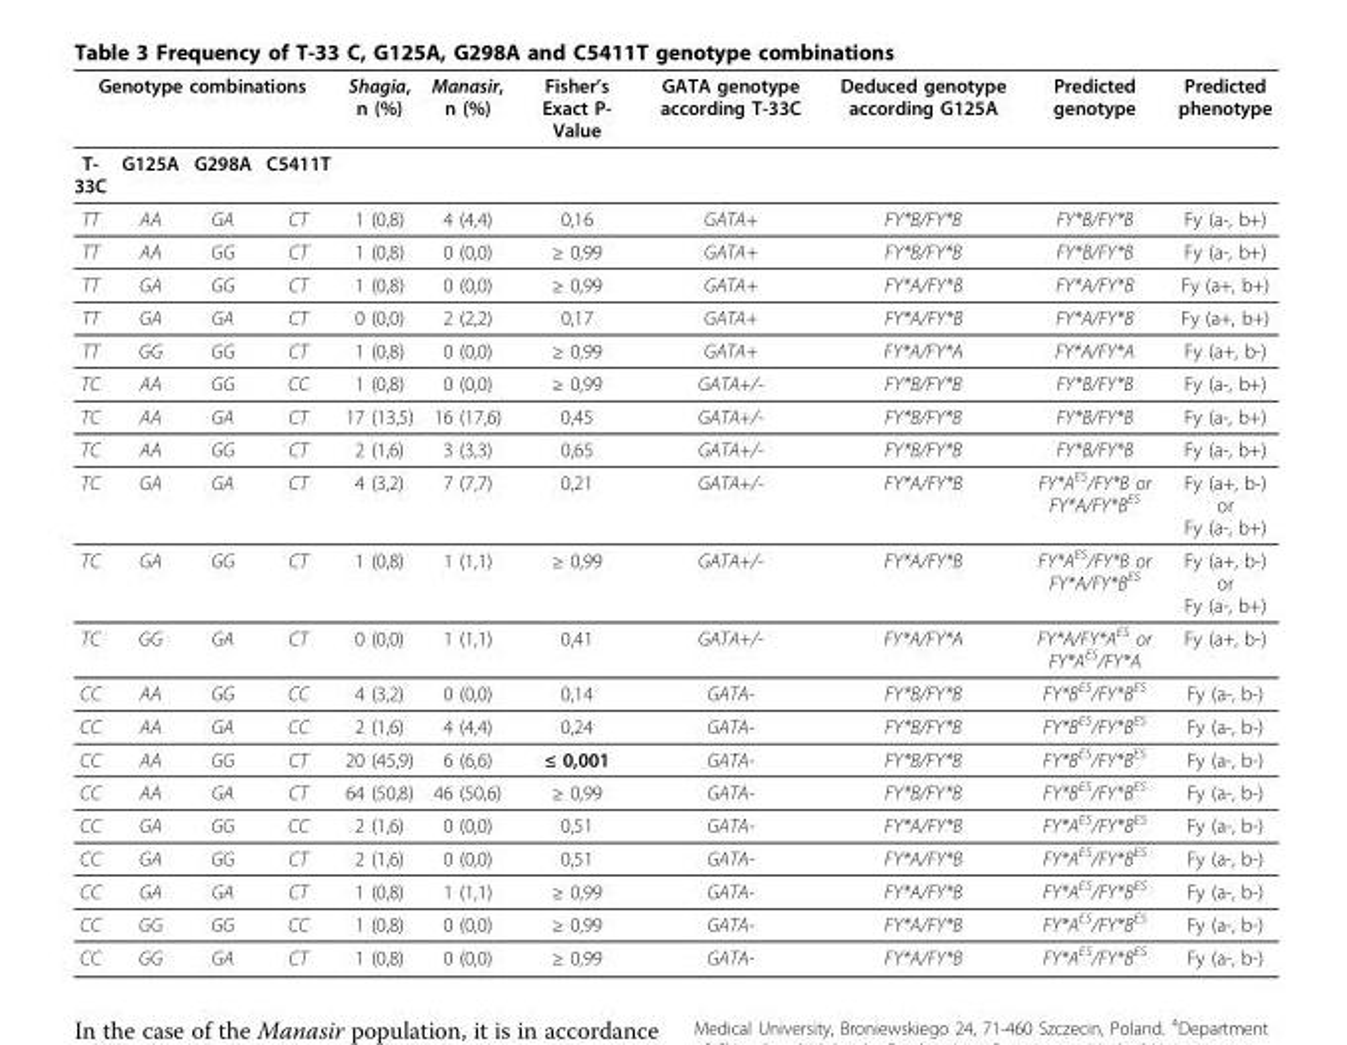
<table><thead><tr><td colspan="4">Genotype combinations</td><td rowspan="2">Shagia, n (%)</td><td rowspan="2">Manasir, n (%)</td><td rowspan="2">Fisher’s Exact P- Value</td><td rowspan="2">GATA genotype according T-33C</td><td rowspan="2">Deduced genotype according G125A</td><td rowspan="2">Predicted genotype</td><td rowspan="2">Predicted phenotype</td></tr><tr><td>T- 33C</td><td>G125A</td><td>G298A</td><td>C5411T</td></tr></thead><tbody><tr><td>TT</td><td>AA</td><td>GA</td><td>CT</td><td>1 (0,8)</td><td>4 (4,4)</td><td>0,16</td><td>GATA+</td><td>FY*B/FY*B</td><td>FY*B/FY*B</td><td>Fy (a-, b+)</td></tr><tr><td>TT</td><td>AA</td><td>GG</td><td>CT</td><td>1 (0,8)</td><td>0 (0,0)</td><td>≥ 0,99</td><td>GATA+</td><td>FY*B/FY*B</td><td>FY*B/FY*B</td><td>Fy (a-, b+)</td></tr><tr><td>TT</td><td>GA</td><td>GG</td><td>CT</td><td>1 (0,8)</td><td>0 (0,0)</td><td>≥ 0,99</td><td>GATA+</td><td>FY*A/FY*B</td><td>FY*A/FY*B</td><td>Fy (a+, b+)</td></tr><tr><td>TT</td><td>GA</td><td>GA</td><td>CT</td><td>0 (0,0)</td><td>2 (2,2)</td><td>0,17</td><td>GATA+</td><td>FY*A/FY*B</td><td>FY*A/FY*B</td><td>Fy (a+, b+)</td></tr><tr><td>TT</td><td>GG</td><td>GG</td><td>CT</td><td>1 (0,8)</td><td>0 (0,0)</td><td>≥ 0,99</td><td>GATA+</td><td>FY*A/FY*A</td><td>FY*A/FY*A</td><td>Fy (a+, b-)</td></tr><tr><td>TC</td><td>AA</td><td>GG</td><td>CC</td><td>1 (0,8)</td><td>0 (0,0)</td><td>≥ 0,99</td><td>GATA+/-</td><td>FY*B/FY*B</td><td>FY*B/FY*B</td><td>Fy (a-, b+)</td></tr><tr><td>TC</td><td>AA</td><td>GA</td><td>CT</td><td>17 (13,5)</td><td>16 (17,6)</td><td>0,45</td><td>GATA+/-</td><td>FY*B/FY*B</td><td>FY*B/FY*B</td><td>Fy (a-, b+)</td></tr><tr><td>TC</td><td>AA</td><td>GG</td><td>CT</td><td>2 (1,6)</td><td>3 (3,3)</td><td>0,65</td><td>GATA+/-</td><td>FY*B/FY*B</td><td>FY*B/FY*B</td><td>Fy (a-, b+)</td></tr><tr><td>TC</td><td>GA</td><td>GA</td><td>CT</td><td>4 (3,2)</td><td>7 (7,7)</td><td>0,21</td><td>GATA+/-</td><td>FY*A/FY*B</td><td>FY*A<sup>ES</sup>/FY*B or FY*A/FY*B<sup>ES</sup></td><td>Fy (a+, b-) or Fy (a-, b+)</td></tr><tr><td>TC</td><td>GA</td><td>GG</td><td>CT</td><td>1 (0,8)</td><td>1 (1,1)</td><td>≥ 0,99</td><td>GATA+/-</td><td>FY*A/FY*B</td><td>FY*A<sup>ES</sup>/FY*B or FY*A/FY*B<sup>ES</sup></td><td>Fy (a+, b-) or Fy (a-, b+)</td></tr><tr><td>TC</td><td>GG</td><td>GA</td><td>CT</td><td>0 (0,0)</td><td>1 (1,1)</td><td>0,41</td><td>GATA+/-</td><td>FY*A/FY*A</td><td>FY*A/FY*A<sup>ES</sup> or FY*A<sup>ES</sup>/FY*A</td><td>Fy (a+, b-)</td></tr><tr><td>CC</td><td>AA</td><td>GG</td><td>CC</td><td>4 (3,2)</td><td>0 (0,0)</td><td>0,14</td><td>GATA-</td><td>FY*B/FY*B</td><td>FY*B<sup>ES</sup>/FY*B<sup>ES</sup></td><td>Fy (a-, b-)</td></tr><tr><td>CC</td><td>AA</td><td>GA</td><td>CC</td><td>2 (1,6)</td><td>4 (4,4)</td><td>0,24</td><td>GATA-</td><td>FY*B/FY*B</td><td>FY*B<sup>ES</sup>/FY*B<sup>ES</sup></td><td>Fy (a-, b-)</td></tr><tr><td>CC</td><td>AA</td><td>GG</td><td>CT</td><td>20 (45,9)</td><td>6 (6,6)</td><td>≤ 0,001</td><td>GATA-</td><td>FY*B/FY*B</td><td>FY*B<sup>ES</sup>/FY*B<sup>ES</sup></td><td>Fy (a-, b-)</td></tr><tr><td>CC</td><td>AA</td><td>GA</td><td>CT</td><td>64 (50,8)</td><td>46 (50,6)</td><td>≥ 0,99</td><td>GATA-</td><td>FY*B/FY*B</td><td>FY*B<sup>ES</sup>/FY*B<sup>ES</sup></td><td>Fy (a-, b-)</td></tr><tr><td>CC</td><td>GA</td><td>GG</td><td>CC</td><td>2 (1,6)</td><td>0 (0,0)</td><td>0,51</td><td>GATA-</td><td>FY*A/FY*B</td><td>FY*A<sup>ES</sup>/FY*B<sup>ES</sup></td><td>Fy (a-, b-)</td></tr><tr><td>CC</td><td>GA</td><td>GG</td><td>CT</td><td>2 (1,6)</td><td>0 (0,0)</td><td>0,51</td><td>GATA-</td><td>FY*A/FY*B</td><td>FY*A<sup>ES</sup>/FY*B<sup>ES</sup></td><td>Fy (a-, b-)</td></tr><tr><td>CC</td><td>GA</td><td>GA</td><td>CT</td><td>1 (0,8)</td><td>1 (1,1)</td><td>≥ 0,99</td><td>GATA-</td><td>FY*A/FY*B</td><td>FY*A<sup>ES</sup>/FY*B<sup>ES</sup></td><td>Fy (a-, b-)</td></tr><tr><td>CC</td><td>GG</td><td>GG</td><td>CC</td><td>1 (0,8)</td><td>0 (0,0)</td><td>≥ 0,99</td><td>GATA-</td><td>FY*A/FY*B</td><td>FY*A<sup>ES</sup>/FY*B<sup>ES</sup></td><td>Fy (a-, b-)</td></tr><tr><td>CC</td><td>GG</td><td>GA</td><td>CT</td><td>1 (0,8)</td><td>0 (0,0)</td><td>≥ 0,99</td><td>GATA-</td><td>FY*A/FY*B</td><td>FY*A<sup>ES</sup>/FY*B<sup>ES</sup></td><td>Fy (a-, b-)</td></tr></tbody></table>